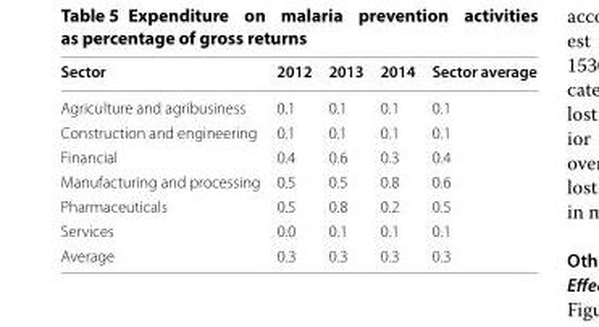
<table><thead><tr><td>Sector</td><td>2012</td><td>2013</td><td>2014</td><td>Sector average</td></tr></thead><tbody><tr><td>Agriculture and agribusiness</td><td>0.1</td><td>0.1</td><td>0.1</td><td>0.1</td></tr><tr><td>Construction and engineering</td><td>0.1</td><td>0.1</td><td>0.1</td><td>0.1</td></tr><tr><td>Financial</td><td>0.4</td><td>0.6</td><td>0.3</td><td>0.4</td></tr><tr><td>Manufacturing and processing</td><td>0.5</td><td>0.5</td><td>0.8</td><td>0.6</td></tr><tr><td>Pharmaceuticals</td><td>0.5</td><td>0.8</td><td>0.2</td><td>0.5</td></tr><tr><td>Services</td><td>0.0</td><td>0.1</td><td>0.1</td><td>0.1</td></tr><tr><td>Average</td><td>0.3</td><td>0.3</td><td>0.3</td><td>0.3</td></tr></tbody></table>